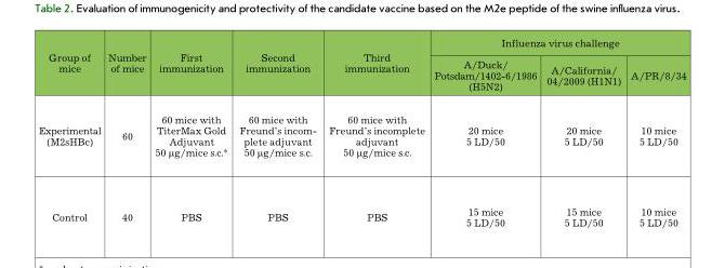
<table><thead><tr><td rowspan="2">Group of mice</td><td rowspan="2">Number of mice</td><td rowspan="2">First immunization</td><td rowspan="2">Second immunization</td><td rowspan="2">Third immunization</td><td colspan="3">Influenza virus challenge</td></tr><tr><td>A/Duck/ Potsdam/1402-6/1986 (Н5N2)</td><td>A/California/ 04/2009 (H1N1)</td><td>A/PR/8/34</td></tr></thead><tbody><tr><td>Experimental (М2sНВс)</td><td>60</td><td>60 mice with TiterMax Gold Adjuvant 50 g/mice s.c.*</td><td>60 mice with Freund’s incom- plete adjuvant 50 g/mice s.c.</td><td>60 mice with Freund’s incomplete adjuvant 50 μg/mice s.c.</td><td>20 mice 5 LD/50</td><td>20 mice 5 LD/50</td><td>10 mice 5 LD/50</td></tr><tr><td>Control</td><td>40</td><td>PBS</td><td>PBS</td><td>PBS</td><td>15 mice 5 LD/50</td><td>15 mice 5 LD/50</td><td>10 mice 5 LD/50</td></tr></tbody></table>